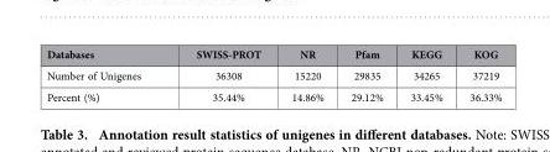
<table><thead><tr><td>Databases</td><td>SWISS-PROT</td><td>NR</td><td>Pfam</td><td>KEGG</td><td>KOG</td></tr></thead><tbody><tr><td>Number of Unigenes</td><td>36308</td><td>15220</td><td>29835</td><td>34265</td><td>37219</td></tr><tr><td>Percent (%)</td><td>35.44%</td><td>14.86%</td><td>29.12%</td><td>33.45%</td><td>36.33%</td></tr></tbody></table>